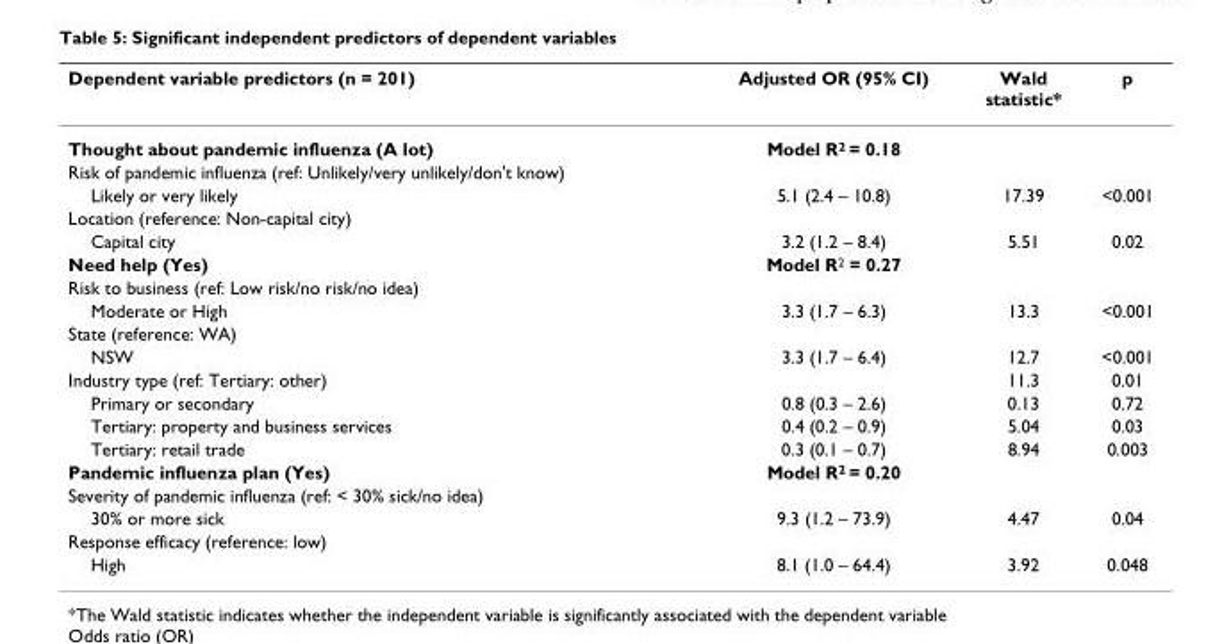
<table><thead><tr><td>Dependent variable predictors (n = 201)</td><td>Adjusted OR (95% CI)</td><td>Wald statistic*</td><td>p</td></tr></thead><tbody><tr><td>Thought about pandemic influenza (A lot)</td><td>Model R<sup>2</sup> = 0.18</td><td></td><td></td></tr><tr><td colspan="4">Risk of pandemic influenza (ref: Unlikely/very unlikely/don&#x27;t know)</td></tr><tr><td>Likely or very likely</td><td>5.1 (2.4 – 10.8)</td><td>17.39</td><td>&lt;0.001</td></tr><tr><td colspan="4">Location (reference: Non-capital city)</td></tr><tr><td>Capital city</td><td>3.2 (1.2 – 8.4)</td><td>5.51</td><td>0.02</td></tr><tr><td>Need help (Yes)</td><td>Model R<sup>2</sup> = 0.27</td><td></td><td></td></tr><tr><td colspan="4">Risk to business (ref: Low risk/no risk/no idea)</td></tr><tr><td>Moderate or High</td><td>3.3 (1.7 – 6.3)</td><td>13.3</td><td>&lt;0.001</td></tr><tr><td colspan="4">State (reference: WA)</td></tr><tr><td>NSW</td><td>3.3 (1.7 – 6.4)</td><td>12.7</td><td>&lt;0.001</td></tr><tr><td>Industry type (ref: Tertiary: other)</td><td></td><td>11.3</td><td>0.01</td></tr><tr><td>Primary or secondary</td><td>0.8 (0.3 – 2.6)</td><td>0.13</td><td>0.72</td></tr><tr><td>Tertiary: property and business services</td><td>0.4 (0.2 – 0.9)</td><td>5.04</td><td>0.03</td></tr><tr><td>Tertiary: retail trade</td><td>0.3 (0.1 – 0.7)</td><td>8.94</td><td>0.003</td></tr><tr><td>Pandemic influenza plan (Yes)</td><td>Model R<sup>2</sup> = 0.20</td><td></td><td></td></tr><tr><td colspan="4">Severity of pandemic influenza (ref: &lt; 30% sick/no idea)</td></tr><tr><td>30% or more sick</td><td>9.3 (1.2 – 73.9)</td><td>4.47</td><td>0.04</td></tr><tr><td colspan="4">Response efficacy (reference: low)</td></tr><tr><td>High</td><td>8.1 (1.0 – 64.4)</td><td>3.92</td><td>0.048</td></tr></tbody></table>